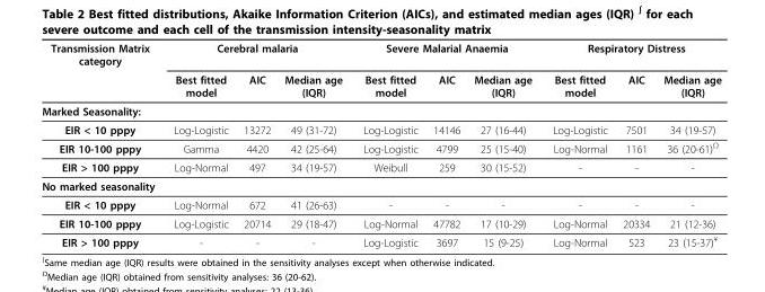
<table><thead><tr><td rowspan="2">Transmission Matrix category</td><td colspan="3">Cerebral malaria</td><td colspan="3">Severe Malarial Anaemia</td><td colspan="3">Respiratory Distress</td></tr><tr><td>Best fitted model</td><td>AIC</td><td>Median age (IQR)</td><td>Best fitted model</td><td>AIC</td><td>Median age (IQR)</td><td>Best fitted model</td><td>AIC</td><td>Median age (IQR)</td></tr></thead><tbody><tr><td colspan="10">Marked Seasonality:</td></tr><tr><td>EIR &lt; 10 pppy</td><td>Log-Logistic</td><td>13272</td><td>49 (31-72)</td><td>Log-Logistic</td><td>14146</td><td>27 (16-44)</td><td>Log-Logistic</td><td>7501</td><td>34 (19-57)</td></tr><tr><td>EIR 10-100 pppy</td><td>Gamma</td><td>4420</td><td>42 (25-64)</td><td>Log-Logistic</td><td>4799</td><td>25 (15-40)</td><td>Log-Normal</td><td>1161</td><td>36 (20-61)<sup>Ω</sup></td></tr><tr><td>EIR &gt; 100 pppy</td><td>Log-Normal</td><td>497</td><td>34 (19-57)</td><td>Weibull</td><td>259</td><td>30 (15-52)</td><td>-</td><td>-</td><td>-</td></tr><tr><td colspan="10">No marked seasonality</td></tr><tr><td>EIR &lt; 10 pppy</td><td>Log-Normal</td><td>672</td><td>41 (26-63)</td><td>-</td><td>-</td><td>-</td><td>-</td><td>-</td><td>-</td></tr><tr><td>EIR 10-100 pppy</td><td>Log-Logistic</td><td>20714</td><td>29 (18-47)</td><td>Log-Normal</td><td>47782</td><td>17 (10-29)</td><td>Log-Normal</td><td>20334</td><td>21 (12-36)</td></tr><tr><td>EIR &gt; 100 pppy</td><td>-</td><td>-</td><td>-</td><td>Log-Logistic</td><td>3697</td><td>15 (9-25)</td><td>Log-Normal</td><td>523</td><td>23 (15-37)<sup>¥</sup></td></tr></tbody></table>